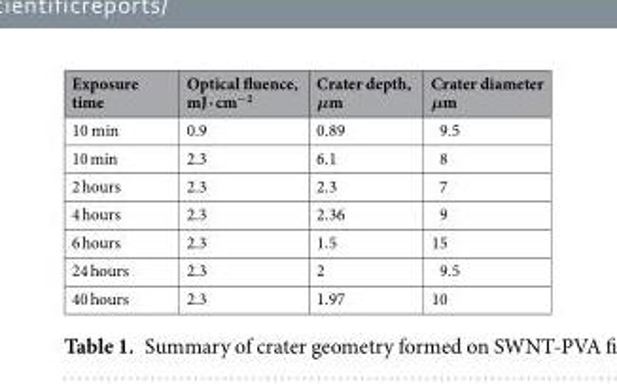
<table><thead><tr><td>Exposure time</td><td>Optical fluence, mJ · cm<sup>−2</sup></td><td>Crater depth, μm</td><td>Crater diameter μm</td></tr></thead><tbody><tr><td>10 min</td><td>0.9</td><td>0.89</td><td>9.5</td></tr><tr><td>10 min</td><td>2.3</td><td>6.1</td><td>8</td></tr><tr><td>2 hours</td><td>2.3</td><td>2.3</td><td>7</td></tr><tr><td>4 hours</td><td>2.3</td><td>2.36</td><td>9</td></tr><tr><td>6 hours</td><td>2.3</td><td>1.5</td><td>15</td></tr><tr><td>24 hours</td><td>2.3</td><td>2</td><td>9.5</td></tr><tr><td>40 hours</td><td>2.3</td><td>1.97</td><td>10</td></tr></tbody></table>